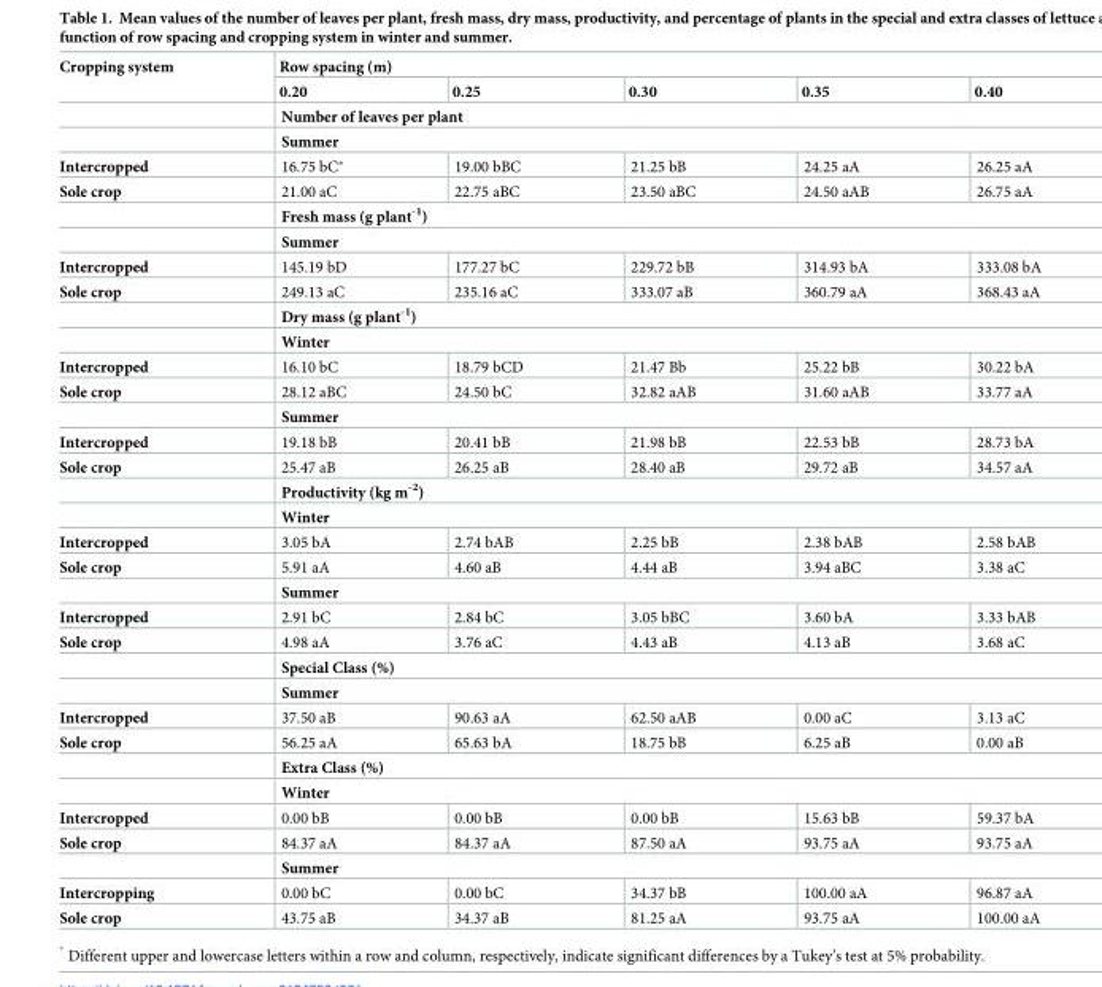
<table><thead><tr><td rowspan="2">Cropping system</td><td colspan="5">Row spacing (m)</td></tr><tr><td>0.20</td><td>0.25</td><td>0.30</td><td>0.35</td><td>0.40</td></tr></thead><tbody><tr><td></td><td colspan="5">Number of leaves per plant</td></tr><tr><td></td><td colspan="5">Summer</td></tr><tr><td>Intercropped</td><td>16.75 bC*</td><td>19.00 bBC</td><td>21.25 bB</td><td>24.25 aA</td><td>26.25 aA</td></tr><tr><td rowspan="3">Sole crop</td><td>21.00 aC</td><td>22.75 aBC</td><td>23.50 aBC</td><td>24.50 aAB</td><td>26.75 aA</td></tr><tr><td colspan="5">Fresh mass (g plant<sup>-1</sup>)</td></tr><tr><td colspan="5">Summer</td></tr><tr><td>Intercropped</td><td>145.19 bD</td><td>177.27 bC</td><td>229.72 bB</td><td>314.93 bA</td><td>333.08 bA</td></tr><tr><td rowspan="3">Sole crop</td><td>249.13 aC</td><td>235.16 aC</td><td>333.07 aB</td><td>360.79 aA</td><td>368.43 aA</td></tr><tr><td colspan="5">Dry mass (g plant<sup>-1</sup>)</td></tr><tr><td colspan="5">Winter</td></tr><tr><td>Intercropped</td><td>16.10 bC</td><td>18.79 bCD</td><td>21.47 Bb</td><td>25.22 bB</td><td>30.22 bA</td></tr><tr><td rowspan="2">Sole crop</td><td>28.12 aBC</td><td>24.50 bC</td><td>32.82 aAB</td><td>31.60 aAB</td><td>33.77 aA</td></tr><tr><td colspan="5">Summer</td></tr><tr><td>Intercropped</td><td>19.18 bB</td><td>20.41 bB</td><td>21.98 bB</td><td>22.53 bB</td><td>28.73 bA</td></tr><tr><td rowspan="3">Sole crop</td><td>25.47 aB</td><td>26.25 aB</td><td>28.40 aB</td><td>29.72 aB</td><td>34.57 aA</td></tr><tr><td colspan="5">Productivity (kg m<sup>-2</sup>)</td></tr><tr><td colspan="5">Winter</td></tr><tr><td>Intercropped</td><td>3.05 bA</td><td>2.74 bAB</td><td>2.25 bB</td><td>2.38 bAB</td><td>2.58 bAB</td></tr><tr><td rowspan="2">Sole crop</td><td>5.91 aA</td><td>4.60 aB</td><td>4.44 aB</td><td>3.94 aBC</td><td>3.38 aC</td></tr><tr><td colspan="5">Summer</td></tr><tr><td>Intercropped</td><td>2.91 bC</td><td>2.84 bC</td><td>3.05 bBC</td><td>3.60 bA</td><td>3.33 bAB</td></tr><tr><td rowspan="3">Sole crop</td><td>4.98 aA</td><td>3.76 aC</td><td>4.43 aB</td><td>4.13 aB</td><td>3.68 aC</td></tr><tr><td colspan="5">Special Class (%)</td></tr><tr><td colspan="5">Summer</td></tr><tr><td>Intercropped</td><td>37.50 aB</td><td>90.63 aA</td><td>62.50 aAB</td><td>0.00 aC</td><td>3.13 aC</td></tr><tr><td rowspan="3">Sole crop</td><td>56.25 aA</td><td>65.63 bA</td><td>18.75 bB</td><td>6.25 aB</td><td>0.00 aB</td></tr><tr><td colspan="5">Extra Class (%)</td></tr><tr><td colspan="5">Winter</td></tr><tr><td>Intercropped</td><td>0.00 bB</td><td>0.00 bB</td><td>0.00 bB</td><td>15.63 bB</td><td>59.37 bA</td></tr><tr><td rowspan="2">Sole crop</td><td>84.37 aA</td><td>84.37 aA</td><td>87.50 aA</td><td>93.75 aA</td><td>93.75 aA</td></tr><tr><td colspan="5">Summer</td></tr><tr><td>Intercropping</td><td>0.00 bC</td><td>0.00 bC</td><td>34.37 bB</td><td>100.00 aA</td><td>96.87 aA</td></tr><tr><td>Sole crop</td><td>43.75 aB</td><td>34.37 aB</td><td>81.25 aA</td><td>93.75 aA</td><td>100.00 aA</td></tr></tbody></table>